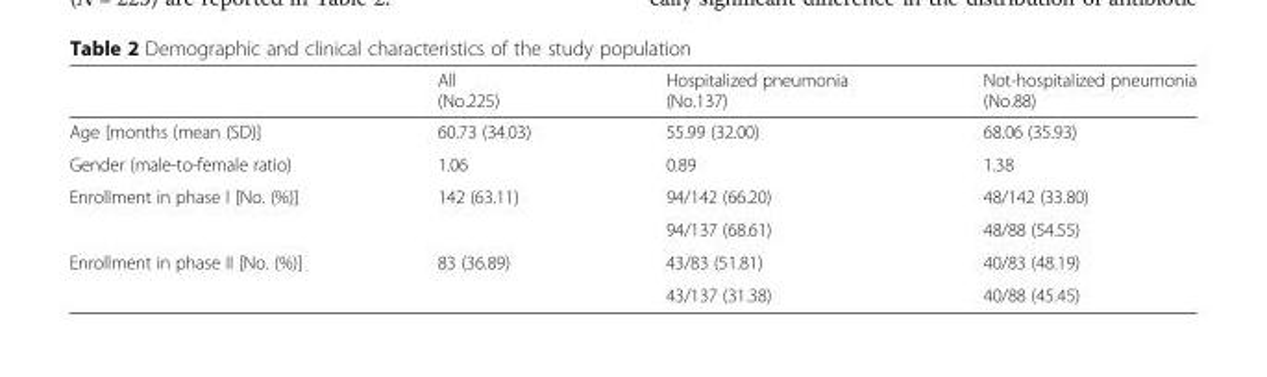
<table><thead><tr><td></td><td>All (No.225)</td><td>Hospitalized pneumonia (No.137)</td><td>Not-hospitalized pneumonia (No.88)</td></tr></thead><tbody><tr><td>Age [months (mean (SD)]</td><td>60.73 (34.03)</td><td>55.99 (32.00)</td><td>68.06 (35.93)</td></tr><tr><td>Gender (male-to-female ratio)</td><td>1.06</td><td>0.89</td><td>1.38</td></tr><tr><td rowspan="2">Enrollment in phase I [No. (%)]</td><td>142 (63.11)</td><td>94/142 (66.20)</td><td>48/142 (33.80)</td></tr><tr><td></td><td>94/137 (68.61)</td><td>48/88 (54.55)</td></tr><tr><td rowspan="2">Enrollment in phase II [No. (%)]</td><td>83 (36.89)</td><td>43/83 (51.81)</td><td>40/83 (48.19)</td></tr><tr><td></td><td>43/137 (31.38)</td><td>40/88 (45.45)</td></tr></tbody></table>